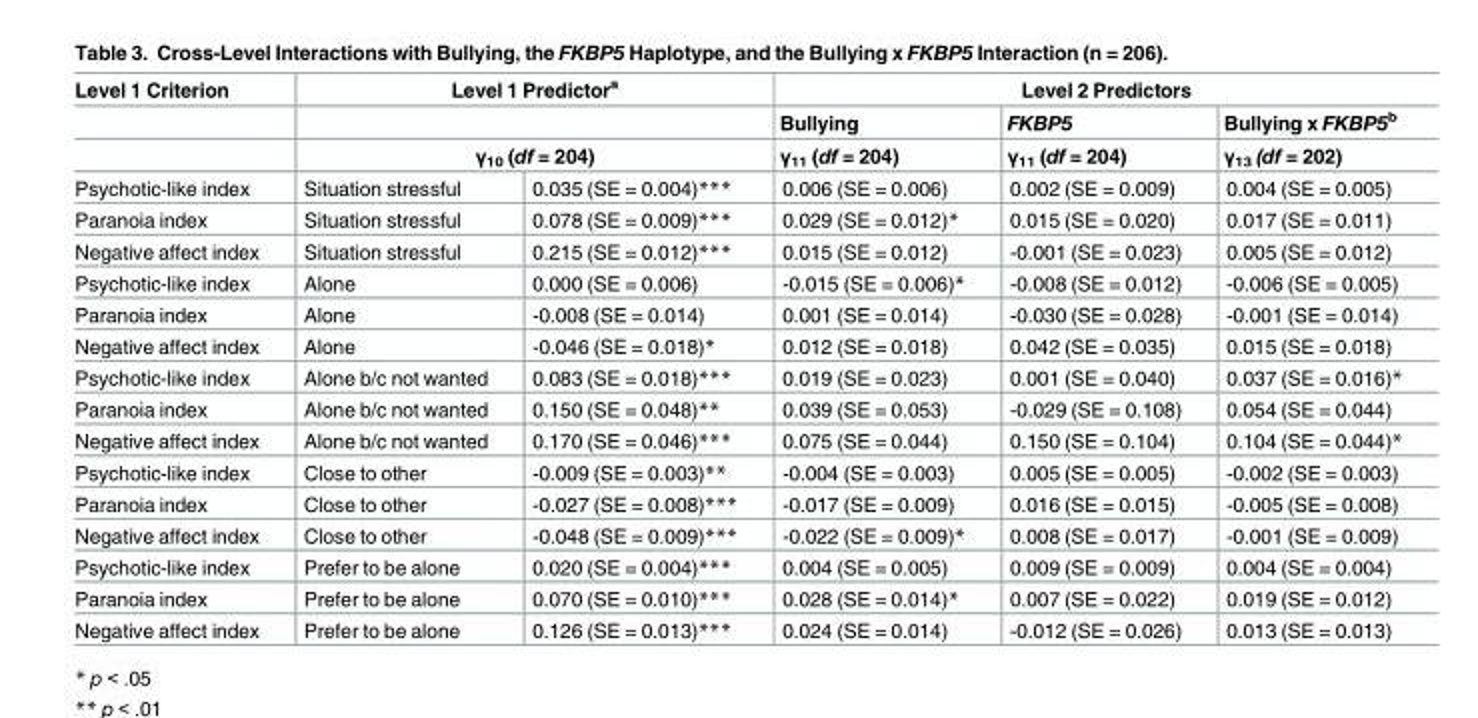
<table><thead><tr><td rowspan="3">Level 1 Criterion</td><td colspan="2">Level 1 Predictor<sup>a</sup></td><td colspan="3">Level 2 Predictors</td></tr><tr><td></td><td></td><td rowspan="2">Bullying γ<sub>11</sub> (df = 204)</td><td rowspan="2">FKBP5 γ<sub>11</sub> (df = 204)</td><td rowspan="2">Bullying x FKBP5<sup>b</sup> γ<sub>13</sub> (df = 202)</td></tr><tr><td colspan="2">γ<sub>10</sub> (df = 204)</td></tr></thead><tbody><tr><td>Psychotic-like index</td><td>Situation stressful</td><td>0.035 (SE = 0.004)***</td><td>0.006 (SE = 0.006)</td><td>0.002 (SE = 0.009)</td><td>0.004 (SE = 0.005)</td></tr><tr><td>Paranoia index</td><td>Situation stressful</td><td>0.078 (SE = 0.009)***</td><td>0.029 (SE = 0.012)*</td><td>0.015 (SE = 0.020)</td><td>0.017 (SE = 0.011)</td></tr><tr><td>Negative affect index</td><td>Situation stressful</td><td>0.215 (SE = 0.012)***</td><td>0.015 (SE = 0.012)</td><td>-0.001 (SE = 0.023)</td><td>0.005 (SE = 0.012)</td></tr><tr><td>Psychotic-like index</td><td>Alone</td><td>0.000 (SE = 0.006)</td><td>-0.015 (SE = 0.006)*</td><td>-0.008 (SE = 0.012)</td><td>-0.006 (SE = 0.005)</td></tr><tr><td>Paranoia index</td><td>Alone</td><td>-0.008 (SE = 0.014)</td><td>0.001 (SE = 0.014)</td><td>-0.030 (SE = 0.028)</td><td>-0.001 (SE = 0.014)</td></tr><tr><td>Negative affect index</td><td>Alone</td><td>-0.046 (SE = 0.018)*</td><td>0.012 (SE = 0.018)</td><td>0.042 (SE = 0.035)</td><td>0.015 (SE = 0.018)</td></tr><tr><td>Psychotic-like index</td><td>Alone b/c not wanted</td><td>0.083 (SE = 0.018)***</td><td>0.019 (SE = 0.023)</td><td>0.001 (SE = 0.040)</td><td>0.037 (SE = 0.016)*</td></tr><tr><td>Paranoia index</td><td>Alone b/c not wanted</td><td>0.150 (SE = 0.048)**</td><td>0.039 (SE = 0.053)</td><td>-0.029 (SE = 0.108)</td><td>0.054 (SE = 0.044)</td></tr><tr><td>Negative affect index</td><td>Alone b/c not wanted</td><td>0.170 (SE = 0.046)***</td><td>0.075 (SE = 0.044)</td><td>0.150 (SE = 0.104)</td><td>0.104 (SE = 0.044)*</td></tr><tr><td>Psychotic-like index</td><td>Close to other</td><td>-0.009 (SE = 0.003)**</td><td>-0.004 (SE = 0.003)</td><td>0.005 (SE = 0.005)</td><td>-0.002 (SE = 0.003)</td></tr><tr><td>Paranoia index</td><td>Close to other</td><td>-0.027 (SE = 0.008)***</td><td>-0.017 (SE = 0.009)</td><td>0.016 (SE = 0.015)</td><td>-0.005 (SE = 0.008)</td></tr><tr><td>Negative affect index</td><td>Close to other</td><td>-0.048 (SE = 0.009)***</td><td>-0.022 (SE = 0.009)*</td><td>0.008 (SE = 0.017)</td><td>-0.001 (SE = 0.009)</td></tr><tr><td>Psychotic-like index</td><td>Prefer to be alone</td><td>0.020 (SE = 0.004)***</td><td>0.004 (SE = 0.005)</td><td>0.009 (SE = 0.009)</td><td>0.004 (SE = 0.004)</td></tr><tr><td>Paranoia index</td><td>Prefer to be alone</td><td>0.070 (SE = 0.010)***</td><td>0.028 (SE = 0.014)*</td><td>0.007 (SE = 0.022)</td><td>0.019 (SE = 0.012)</td></tr><tr><td>Negative affect index</td><td>Prefer to be alone</td><td>0.126 (SE = 0.013)***</td><td>0.024 (SE = 0.014)</td><td>-0.012 (SE = 0.026)</td><td>0.013 (SE = 0.013)</td></tr></tbody></table>